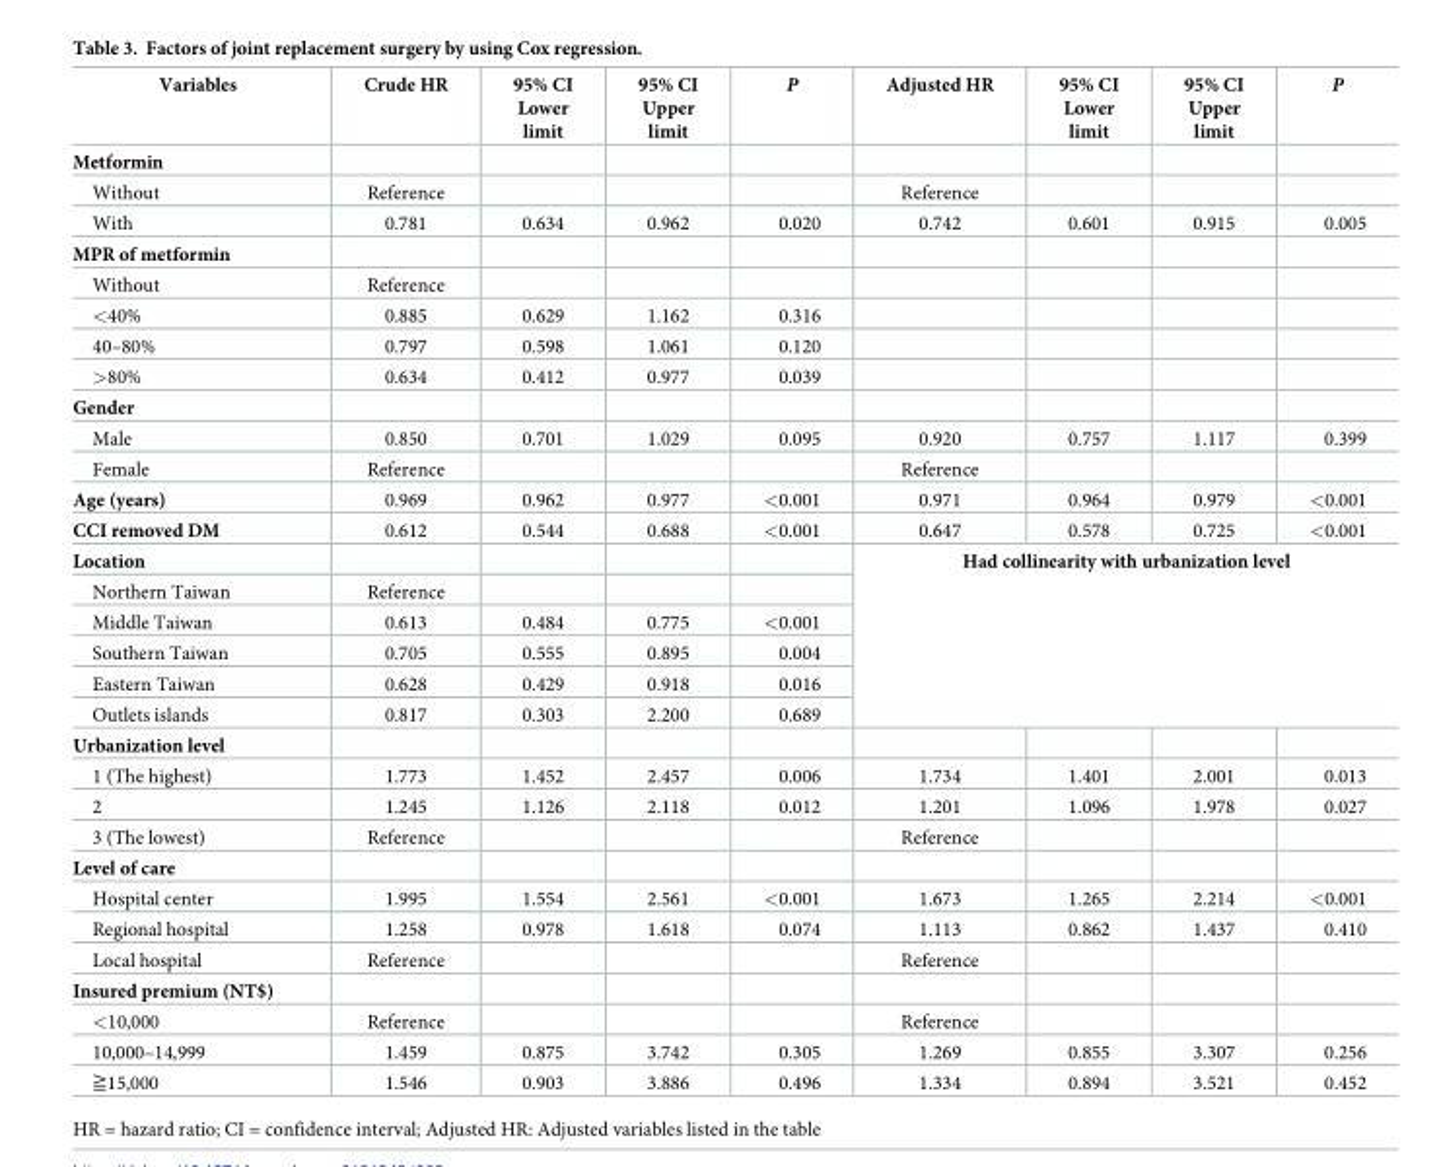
<table><thead><tr><td>Variables</td><td>Crude HR</td><td>95% CI Lower limit</td><td>95% CI Upper limit</td><td>P</td><td>Adjusted HR</td><td>95% CI Lower limit</td><td>95% CI Upper limit</td><td>P</td></tr></thead><tbody><tr><td colspan="9">Metformin</td></tr><tr><td>Without</td><td>Reference</td><td></td><td></td><td></td><td>Reference</td><td></td><td></td><td></td></tr><tr><td>With</td><td>0.781</td><td>0.634</td><td>0.962</td><td>0.020</td><td>0.742</td><td>0.601</td><td>0.915</td><td>0.005</td></tr><tr><td colspan="9">MPR of metformin</td></tr><tr><td>Without</td><td>Reference</td><td></td><td></td><td></td><td></td><td></td><td></td><td></td></tr><tr><td>&lt;40%</td><td>0.885</td><td>0.629</td><td>1.162</td><td>0.316</td><td></td><td></td><td></td><td></td></tr><tr><td>40–80%</td><td>0.797</td><td>0.598</td><td>1.061</td><td>0.120</td><td></td><td></td><td></td><td></td></tr><tr><td>&gt;80%</td><td>0.634</td><td>0.412</td><td>0.977</td><td>0.039</td><td></td><td></td><td></td><td></td></tr><tr><td colspan="9">Gender</td></tr><tr><td>Male</td><td>0.850</td><td>0.701</td><td>1.029</td><td>0.095</td><td>0.920</td><td>0.757</td><td>1.117</td><td>0.399</td></tr><tr><td>Female</td><td>Reference</td><td></td><td></td><td></td><td>Reference</td><td></td><td></td><td></td></tr><tr><td>Age (years)</td><td>0.969</td><td>0.962</td><td>0.977</td><td>&lt;0.001</td><td>0.971</td><td>0.964</td><td>0.979</td><td>&lt;0.001</td></tr><tr><td>CCI removed DM</td><td>0.612</td><td>0.544</td><td>0.688</td><td>&lt;0.001</td><td>0.647</td><td>0.578</td><td>0.725</td><td>&lt;0.001</td></tr><tr><td colspan="5">Location</td><td rowspan="6" colspan="4">Had collinearity with urbanization level</td></tr><tr><td>Northern Taiwan</td><td>Reference</td><td></td><td></td><td></td></tr><tr><td>Middle Taiwan</td><td>0.613</td><td>0.484</td><td>0.775</td><td>&lt;0.001</td></tr><tr><td>Southern Taiwan</td><td>0.705</td><td>0.555</td><td>0.895</td><td>0.004</td></tr><tr><td>Eastern Taiwan</td><td>0.628</td><td>0.429</td><td>0.918</td><td>0.016</td></tr><tr><td>Outlets islands</td><td>0.817</td><td>0.303</td><td>2.200</td><td>0.689</td></tr><tr><td colspan="9">Urbanization level</td></tr><tr><td>1 (The highest)</td><td>1.773</td><td>1.452</td><td>2.457</td><td>0.006</td><td>1.734</td><td>1.401</td><td>2.001</td><td>0.013</td></tr><tr><td>2</td><td>1.245</td><td>1.126</td><td>2.118</td><td>0.012</td><td>1.201</td><td>1.096</td><td>1.978</td><td>0.027</td></tr><tr><td>3 (The lowest)</td><td>Reference</td><td></td><td></td><td></td><td>Reference</td><td></td><td></td><td></td></tr><tr><td colspan="9">Level of care</td></tr><tr><td>Hospital center</td><td>1.995</td><td>1.554</td><td>2.561</td><td>&lt;0.001</td><td>1.673</td><td>1.265</td><td>2.214</td><td>&lt;0.001</td></tr><tr><td>Regional hospital</td><td>1.258</td><td>0.978</td><td>1.618</td><td>0.074</td><td>1.113</td><td>0.862</td><td>1.437</td><td>0.410</td></tr><tr><td>Local hospital</td><td>Reference</td><td></td><td></td><td></td><td>Reference</td><td></td><td></td><td></td></tr><tr><td colspan="9">Insured premium (NT$)</td></tr><tr><td>&lt;10,000</td><td>Reference</td><td></td><td></td><td></td><td>Reference</td><td></td><td></td><td></td></tr><tr><td>10,000–14,999</td><td>1.459</td><td>0.875</td><td>3.742</td><td>0.305</td><td>1.269</td><td>0.855</td><td>3.307</td><td>0.256</td></tr><tr><td>≧15,000</td><td>1.546</td><td>0.903</td><td>3.886</td><td>0.496</td><td>1.334</td><td>0.894</td><td>3.521</td><td>0.452</td></tr></tbody></table>